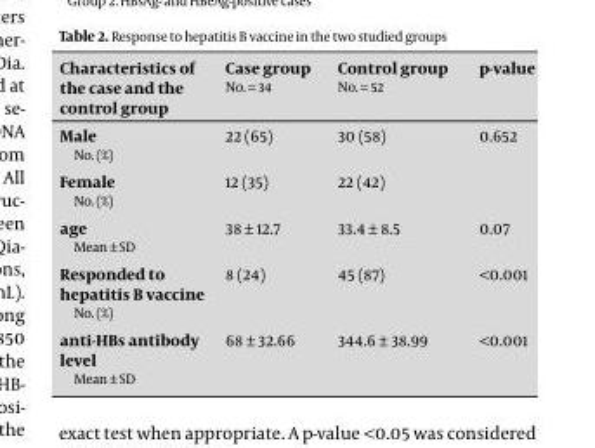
<table><thead><tr><td>Characteristics of the case and the control group</td><td>Case group No. = 34</td><td>Control group No. = 52</td><td>p-value</td></tr></thead><tbody><tr><td>Male No. (%)</td><td>22 (65)</td><td>30 (58)</td><td rowspan="2">0.652</td></tr><tr><td>Female No. (%)</td><td>12 (35)</td><td>22 (42)</td></tr><tr><td>age Mean ± SD</td><td>38 ± 12.7</td><td>33.4 ± 8.5</td><td>0.07</td></tr><tr><td>Responded to hepatitis B vaccine No. (%)</td><td>8 (24)</td><td>45 (87)</td><td>&lt;0.001</td></tr><tr><td>anti-HBs antibody level Mean ± SD</td><td>68 ± 32.66</td><td>344.6 ± 38.99</td><td>&lt;0.001</td></tr></tbody></table>